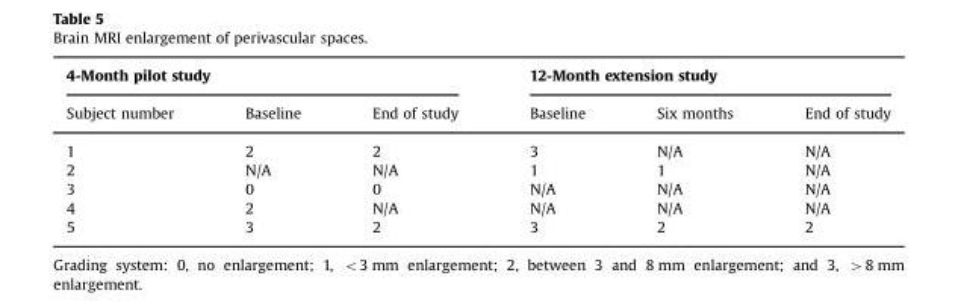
<table><thead><tr><td colspan="3">4-Month pilot study</td><td colspan="3">12-Month extension study</td></tr><tr><td>Subject number</td><td>Baseline</td><td>End of study</td><td>Baseline</td><td>Six months</td><td>End of study</td></tr></thead><tbody><tr><td>1</td><td>2</td><td>2</td><td>3</td><td>N/A</td><td>N/A</td></tr><tr><td>2</td><td>N/A</td><td>N/A</td><td>1</td><td>1</td><td>N/A</td></tr><tr><td>3</td><td>0</td><td>0</td><td>N/A</td><td>N/A</td><td>N/A</td></tr><tr><td>4</td><td>2</td><td>N/A</td><td>N/A</td><td>N/A</td><td>N/A</td></tr><tr><td>5</td><td>3</td><td>2</td><td>3</td><td>2</td><td>2</td></tr></tbody></table>